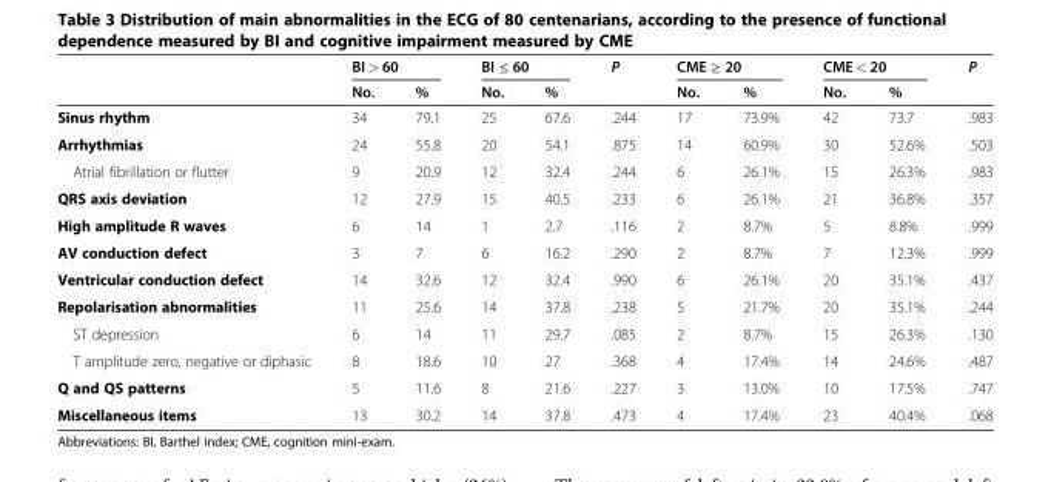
<table><thead><tr><td rowspan="2"></td><td colspan="2">BI &gt; 60</td><td colspan="2">BI ≤ 60</td><td rowspan="2">P</td><td colspan="2">CME ≥ 20</td><td colspan="2">CME &lt; 20</td><td rowspan="2">P</td></tr><tr><td>No.</td><td>%</td><td>No.</td><td>%</td><td>No.</td><td>%</td><td>No.</td><td>%</td></tr></thead><tbody><tr><td>Sinus rhythm</td><td>34</td><td>79.1</td><td>25</td><td>67.6</td><td>.244</td><td>17</td><td>73.9%</td><td>42</td><td>73.7</td><td>.983</td></tr><tr><td>Arrhythmias</td><td>24</td><td>55.8</td><td>20</td><td>54.1</td><td>.875</td><td>14</td><td>60.9%</td><td>30</td><td>52.6%</td><td>.503</td></tr><tr><td>Atrial fibrillation or flutter</td><td>9</td><td>20.9</td><td>12</td><td>32.4</td><td>.244</td><td>6</td><td>26.1%</td><td>15</td><td>26.3%</td><td>.983</td></tr><tr><td>QRS axis deviation</td><td>12</td><td>27.9</td><td>15</td><td>40.5</td><td>.233</td><td>6</td><td>26.1%</td><td>21</td><td>36.8%</td><td>.357</td></tr><tr><td>High amplitude R waves</td><td>6</td><td>14</td><td>1</td><td>2.7</td><td>.116</td><td>2</td><td>8.7%</td><td>5</td><td>8.8%</td><td>.999</td></tr><tr><td>AV conduction defect</td><td>3</td><td>7</td><td>6</td><td>16.2</td><td>.290</td><td>2</td><td>8.7%</td><td>7</td><td>12.3%</td><td>.999</td></tr><tr><td>Ventricular conduction defect</td><td>14</td><td>32.6</td><td>12</td><td>32.4</td><td>.990</td><td>6</td><td>26.1%</td><td>20</td><td>35.1%</td><td>.437</td></tr><tr><td>Repolarisation abnormalities</td><td>11</td><td>25.6</td><td>14</td><td>37.8</td><td>.238</td><td>5</td><td>21.7%</td><td>20</td><td>35.1%</td><td>.244</td></tr><tr><td>ST depression</td><td>6</td><td>14</td><td>11</td><td>29.7</td><td>.085</td><td>2</td><td>8.7%</td><td>15</td><td>26.3%</td><td>.130</td></tr><tr><td>T amplitude zero, negative or diphasic</td><td>8</td><td>18.6</td><td>10</td><td>27</td><td>.368</td><td>4</td><td>17.4%</td><td>14</td><td>24.6%</td><td>.487</td></tr><tr><td>Q and QS patterns</td><td>5</td><td>11.6</td><td>8</td><td>21.6</td><td>.227</td><td>3</td><td>13.0%</td><td>10</td><td>17.5%</td><td>.747</td></tr><tr><td>Miscellaneous items</td><td>13</td><td>30.2</td><td>14</td><td>37.8</td><td>.473</td><td>4</td><td>17.4%</td><td>23</td><td>40.4%</td><td>.068</td></tr></tbody></table>